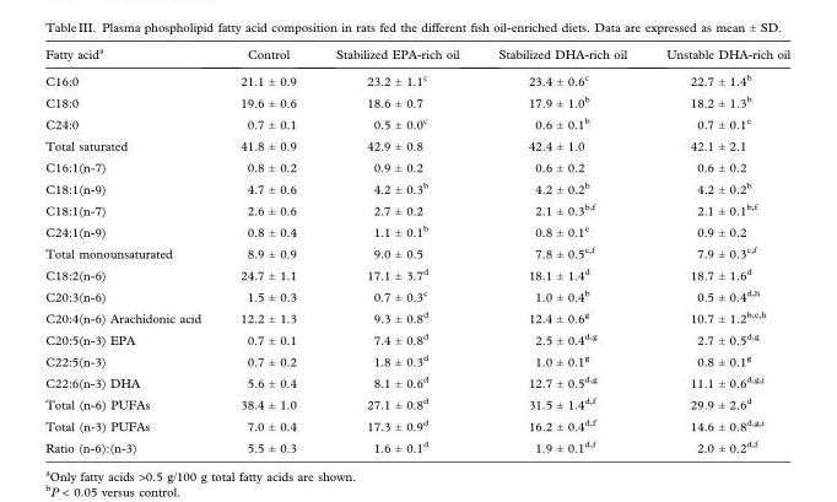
<table><thead><tr><td>Fatty acid<sup>a</sup></td><td>Control</td><td>Stabilized EPA-rich oil</td><td>Stabilized DHA-rich oil</td><td>Unstable DHA-rich oil</td></tr></thead><tbody><tr><td>C16:0</td><td>21.1 ± 0.9</td><td>23.2 ± 1.1<sup>c</sup></td><td>23.4 ± 0.6<sup>c</sup></td><td>22.7 ± 1.4<sup>b</sup></td></tr><tr><td>C18:0</td><td>19.6 ± 0.6</td><td>18.6 ± 0.7</td><td>17.9 ± 1.0<sup>b</sup></td><td>18.2 ± 1.3<sup>b</sup></td></tr><tr><td>C24:0</td><td>0.7 ± 0.1</td><td>0.5 ± 0.0<sup>c</sup></td><td>0.6 ± 0.1<sup>b</sup></td><td>0.7 ± 0.1<sup>e</sup></td></tr><tr><td>Total saturated</td><td>41.8 ± 0.9</td><td>42.9 ± 0.8</td><td>42.4 ± 1.0</td><td>42.1 ± 2.1</td></tr><tr><td>C16:1(n-7)</td><td>0.8 ± 0.2</td><td>0.9 ± 0.2</td><td>0.6 ± 0.2</td><td>0.6 ± 0.2</td></tr><tr><td>C18:1(n-9)</td><td>4.7 ± 0.6</td><td>4.2 ± 0.3<sup>b</sup></td><td>4.2 ± 0.2<sup>b</sup></td><td>4.2 ± 0.2<sup>b</sup></td></tr><tr><td>C18:1(n-7)</td><td>2.6 ± 0.6</td><td>2.7 ± 0.2</td><td>2.1 ± 0.3<sup>b,f</sup></td><td>2.1 ± 0.1<sup>b,f</sup></td></tr><tr><td>C24:1(n-9)</td><td>0.8 ± 0.4</td><td>1.1 ± 0.1<sup>b</sup></td><td>0.8 ± 0.1<sup>e</sup></td><td>0.9 ± 0.2</td></tr><tr><td>Total monounsaturated</td><td>8.9 ± 0.9</td><td>9.0 ± 0.5</td><td>7.8 ± 0.5<sup>c,f</sup></td><td>7.9 ± 0.3<sup>c,f</sup></td></tr><tr><td>C18:2(n-6)</td><td>24.7 ± 1.1</td><td>17.1 ± 3.7<sup>d</sup></td><td>18.1 ± 1.4<sup>d</sup></td><td>18.7 ± 1.6<sup>d</sup></td></tr><tr><td>C20:3(n-6)</td><td>1.5 ± 0.3</td><td>0.7 ± 0.3<sup>c</sup></td><td>1.0 ± 0.4<sup>b</sup></td><td>0.5 ± 0.4<sup>d,h</sup></td></tr><tr><td>C20:4(n-6) Arachidonic acid</td><td>12.2 ± 1.3</td><td>9.3 ± 0.8<sup>d</sup></td><td>12.4 ± 0.6<sup>g</sup></td><td>10.7 ± 1.2<sup>b,e,h</sup></td></tr><tr><td>C20:5(n-3) EPA</td><td>0.7 ± 0.1</td><td>7.4 ± 0.8<sup>d</sup></td><td>2.5 ± 0.4<sup>d,g</sup></td><td>2.7 ± 0.5<sup>d,g</sup></td></tr><tr><td>C22:5(n-3)</td><td>0.7 ± 0.2</td><td>1.8 ± 0.3<sup>d</sup></td><td>1.0 ± 0.1<sup>g</sup></td><td>0.8 ± 0.1<sup>g</sup></td></tr><tr><td>C22:6(n-3) DHA</td><td>5.6 ± 0.4</td><td>8.1 ± 0.6<sup>d</sup></td><td>12.7 ± 0.5<sup>d,g</sup></td><td>11.1 ± 0.6<sup>d,g,j</sup></td></tr><tr><td>Total (n-6) PUFAs</td><td>38.4 ± 1.0</td><td>27.1 ± 0.8<sup>d</sup></td><td>31.5 ± 1.4<sup>d,f</sup></td><td>29.9 ± 2.6<sup>d</sup></td></tr><tr><td>Total (n-3) PUFAs</td><td>7.0 ± 0.4</td><td>17.3 ± 0.9<sup>d</sup></td><td>16.2 ± 0.4<sup>d,f</sup></td><td>14.6 ± 0.8<sup>d,g,i</sup></td></tr><tr><td>Ratio (n-6):(n-3)</td><td>5.5 ± 0.3</td><td>1.6 ± 0.1<sup>d</sup></td><td>1.9 ± 0.1<sup>d,f</sup></td><td>2.0 ± 0.2<sup>d,f</sup></td></tr></tbody></table>